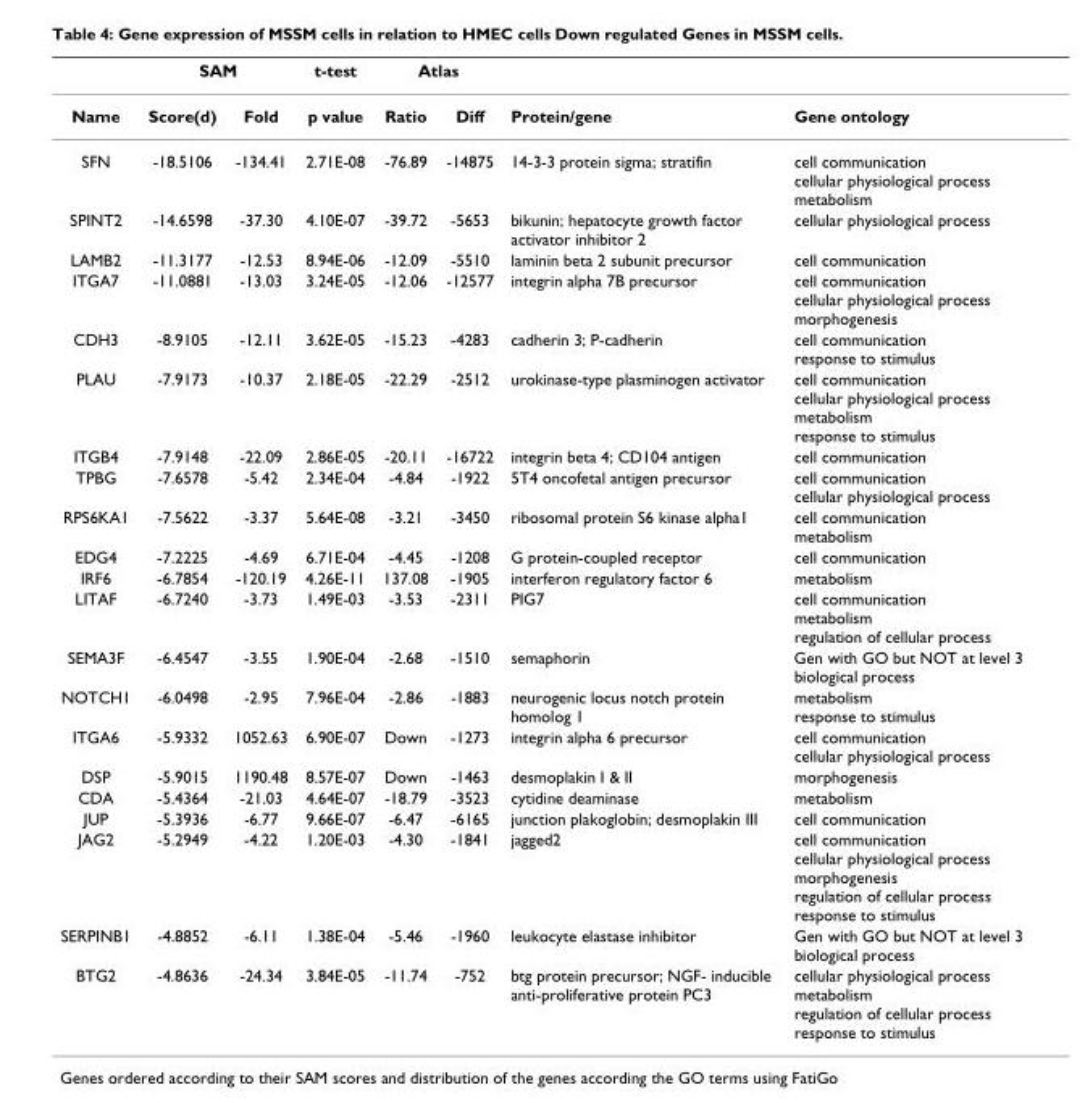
<table><thead><tr><td rowspan="2">Name</td><td colspan="2">SAM</td><td rowspan="2">t-test p value</td><td colspan="2">Atlas</td><td rowspan="2">Protein/gene</td><td rowspan="2">Gene ontology</td></tr><tr><td>Score(d)</td><td>Fold</td><td>Ratio</td><td>Diff</td></tr></thead><tbody><tr><td>SFN</td><td>-18.5106</td><td>-134.41</td><td>2.71E-08</td><td>-76.89</td><td>-14875</td><td>14-3-3 protein sigma; stratifin</td><td>cell communication cellular physiological process metabolism</td></tr><tr><td>SPINT2</td><td>-14.6598</td><td>-37.30</td><td>4.10E-07</td><td>-39.72</td><td>-5653</td><td>bikunin; hepatocyte growth factor activator inhibitor 2</td><td>cellular physiological process</td></tr><tr><td>LAMB2</td><td>-11.3177</td><td>-12.53</td><td>8.94E-06</td><td>-12.09</td><td>-5510</td><td>laminin beta 2 subunit precursor</td><td>cell communication</td></tr><tr><td>ITGA7</td><td>-11.0881</td><td>-13.03</td><td>3.24E-05</td><td>-12.06</td><td>-12577</td><td>integrin alpha 7B precursor</td><td>cell communication cellular physiological process morphogenesis</td></tr><tr><td>CDH3</td><td>-8.9105</td><td>-12.11</td><td>3.62E-05</td><td>-15.23</td><td>-4283</td><td>cadherin 3; P-cadherin</td><td>cell communication response to stimulus</td></tr><tr><td>PLAU</td><td>-7.9173</td><td>-10.37</td><td>2.18E-05</td><td>-22.29</td><td>-2512</td><td>urokinase-type plasminogen activator</td><td>cell communication cellular physiological process metabolism response to stimulus</td></tr><tr><td>ITGB4</td><td>-7.9148</td><td>-22.09</td><td>2.86E-05</td><td>-20.11</td><td>-16722</td><td>integrin beta 4; CD104 antigen</td><td>cell communication</td></tr><tr><td>TPBG</td><td>-7.6578</td><td>-5.42</td><td>2.34E-04</td><td>-4.84</td><td>-1922</td><td>5T4 oncofetal antigen precursor</td><td>cell communication cellular physiological process</td></tr><tr><td>RPS6KA1</td><td>-7.5622</td><td>-3.37</td><td>5.64E-08</td><td>-3.21</td><td>-3450</td><td>ribosomal protein S6 kinase alpha1</td><td>cell communication metabolism</td></tr><tr><td>EDG4</td><td>-7.2225</td><td>-4.69</td><td>6.71E-04</td><td>-4.45</td><td>-1208</td><td>G protein-coupled receptor</td><td>cell communication</td></tr><tr><td>IRF6</td><td>-6.7854</td><td>-120.19</td><td>4.26E-11</td><td>137.08</td><td>-1905</td><td>interferon regulatory factor 6</td><td>metabolism</td></tr><tr><td>LITAF</td><td>-6.7240</td><td>-3.73</td><td>1.49E-03</td><td>-3.53</td><td>-2311</td><td>PIG7</td><td>cell communication metabolism regulation of cellular process</td></tr><tr><td>SEMA3F</td><td>-6.4547</td><td>-3.55</td><td>1.90E-04</td><td>-2.68</td><td>-1510</td><td>semaphorin</td><td>Gen with GO but NOT at level 3 biological process</td></tr><tr><td>NOTCH1</td><td>-6.0498</td><td>-2.95</td><td>7.96E-04</td><td>-2.86</td><td>-1883</td><td>neurogenic locus notch protein homolog 1</td><td>metabolism response to stimulus</td></tr><tr><td>ITGA6</td><td>-5.9332</td><td>1052.63</td><td>6.90E-07</td><td>Down</td><td>-1273</td><td>integrin alpha 6 precursor</td><td>cell communication cellular physiological process</td></tr><tr><td>DSP</td><td>-5.9015</td><td>1190.48</td><td>8.57E-07</td><td>Down</td><td>-1463</td><td>desmoplakin I &amp; II</td><td>morphogenesis</td></tr><tr><td>CDA</td><td>-5.4364</td><td>-21.03</td><td>4.64E-07</td><td>-18.79</td><td>-3523</td><td>cytidine deaminase</td><td>metabolism</td></tr><tr><td>JUP</td><td>-5.3936</td><td>-6.77</td><td>9.66E-07</td><td>-6.47</td><td>-6165</td><td>junction plakoglobin; desmoplakin III</td><td>cell communication</td></tr><tr><td>JAG2</td><td>-5.2949</td><td>-4.22</td><td>1.20E-03</td><td>-4.30</td><td>-1841</td><td>jagged2</td><td>cell communication cellular physiological process morphogenesis regulation of cellular process response to stimulus</td></tr><tr><td>SERPINB1</td><td>-4.8852</td><td>-6.11</td><td>1.38E-04</td><td>-5.46</td><td>-1960</td><td>leukocyte elastase inhibitor</td><td>Gen with GO but NOT at level 3 biological process</td></tr><tr><td>BTG2</td><td>-4.8636</td><td>-24.34</td><td>3.84E-05</td><td>-11.74</td><td>-752</td><td>btg protein precursor; NGF- inducible anti-proliferative protein PC3</td><td>cellular physiological process metabolism regulation of cellular process response to stimulus</td></tr></tbody></table>